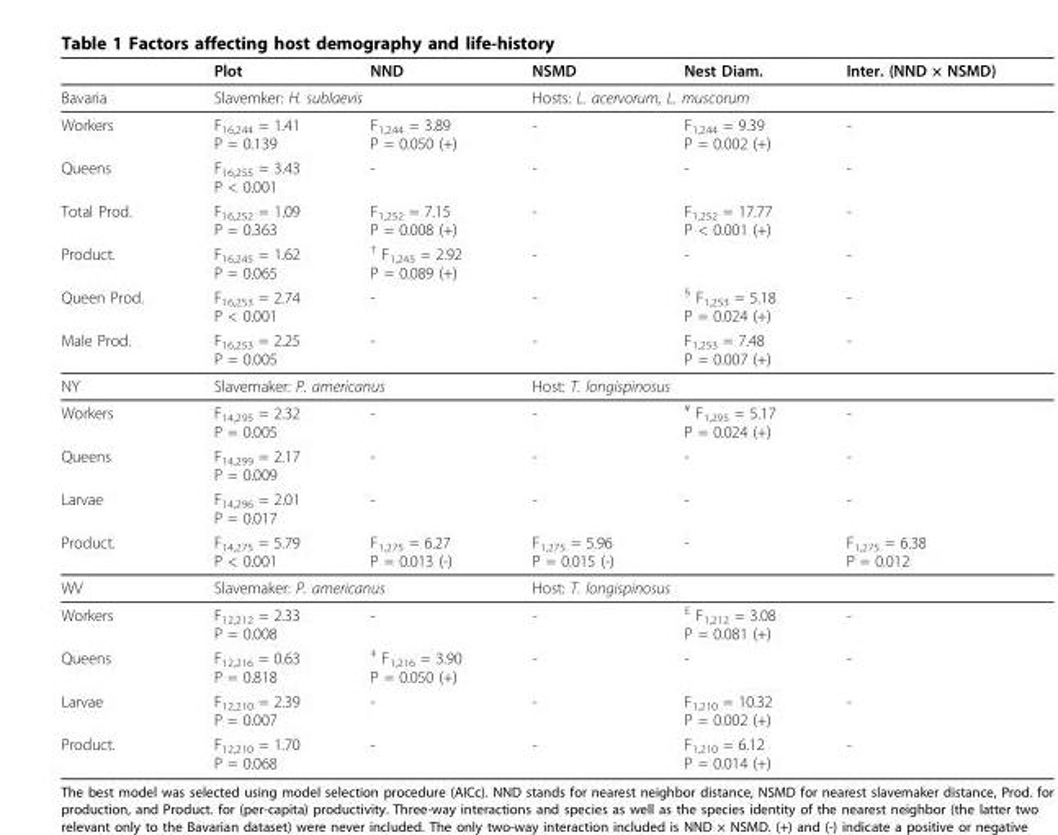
<table><thead><tr><td></td><td>Plot</td><td>NND</td><td>NSMD</td><td>Nest Diam.</td><td>Inter. (NND × NSMD)</td></tr></thead><tbody><tr><td>Bavaria</td><td colspan="2">Slavemker: H. sublaevis</td><td colspan="3">Hosts: L. acervorum, L. muscorum</td></tr><tr><td>Workers</td><td>F<sub>16,244</sub> = 1.41 P = 0.139</td><td>F<sub>1,244</sub> = 3.89 P = 0.050 (+)</td><td>-</td><td>F<sub>1,244</sub> = 9.39 P = 0.002 (+)</td><td>-</td></tr><tr><td>Queens</td><td>F<sub>16,255</sub> = 3.43 P &lt; 0.001</td><td>-</td><td>-</td><td>-</td><td>-</td></tr><tr><td>Total Prod.</td><td>F<sub>16,252</sub> = 1.09 P = 0.363</td><td>F<sub>1,252</sub> = 7.15 P = 0.008 (+)</td><td>-</td><td>F<sub>1,252</sub> = 17.77 P &lt; 0.001 (+)</td><td>-</td></tr><tr><td>Product.</td><td>F<sub>16,245</sub> = 1.62 P = 0.065</td><td><sup>†</sup> F<sub>1,245</sub> = 2.92 P = 0.089 (+)</td><td>-</td><td>-</td><td>-</td></tr><tr><td>Queen Prod.</td><td>F<sub>16,253</sub> = 2.74 P &lt; 0.001</td><td>-</td><td>-</td><td><sup>§</sup> F<sub>1,253</sub> = 5.18 P = 0.024 (+)</td><td>-</td></tr><tr><td>Male Prod.</td><td>F<sub>16,253</sub> = 2.25 P = 0.005</td><td>-</td><td>-</td><td>F<sub>1,253</sub> = 7.48 P = 0.007 (+)</td><td>-</td></tr><tr><td>NY</td><td colspan="2">Slavemaker: P. americanus</td><td colspan="3">Host: T. longispinosus</td></tr><tr><td>Workers</td><td>F<sub>14,295</sub> = 2.32 P = 0.005</td><td>-</td><td>-</td><td><sup>¥</sup> F<sub>1,295</sub> = 5.17 P = 0.024 (+)</td><td>-</td></tr><tr><td>Queens</td><td>F<sub>14,299</sub> = 2.17 P = 0.009</td><td>-</td><td>-</td><td>-</td><td>-</td></tr><tr><td>Larvae</td><td>F<sub>14,296</sub> = 2.01 P = 0.017</td><td>-</td><td>-</td><td>-</td><td>-</td></tr><tr><td>Product.</td><td>F<sub>14,275</sub> = 5.79 P &lt; 0.001</td><td>F<sub>1,275</sub> = 6.27 P = 0.013 (-)</td><td>F<sub>1,275</sub> = 5.96 P = 0.015 (-)</td><td>-</td><td>F<sub>1,275</sub> = 6.38 P = 0.012</td></tr><tr><td>WV</td><td colspan="2">Slavemaker: P. americanus</td><td colspan="3">Host: T. longispinosus</td></tr><tr><td>Workers</td><td>F<sub>12,212</sub> = 2.33 P = 0.008</td><td>-</td><td>-</td><td><sup>£</sup> F<sub>1,212</sub> = 3.08 P = 0.081 (+)</td><td>-</td></tr><tr><td>Queens</td><td>F<sub>12,216</sub> = 0.63 P = 0.818</td><td><sup>‡</sup> F<sub>1,216</sub> = 3.90 P = 0.050 (+)</td><td>-</td><td>-</td><td>-</td></tr><tr><td>Larvae</td><td>F<sub>12,210</sub> = 2.39 P = 0.007</td><td>-</td><td>-</td><td>F<sub>1,210</sub> = 10.32 P = 0.002 (+)</td><td>-</td></tr><tr><td>Product.</td><td>F<sub>12,210</sub> = 1.70 P = 0.068</td><td>-</td><td>-</td><td>F<sub>1,210</sub> = 6.12 P = 0.014 (+)</td><td>-</td></tr></tbody></table>